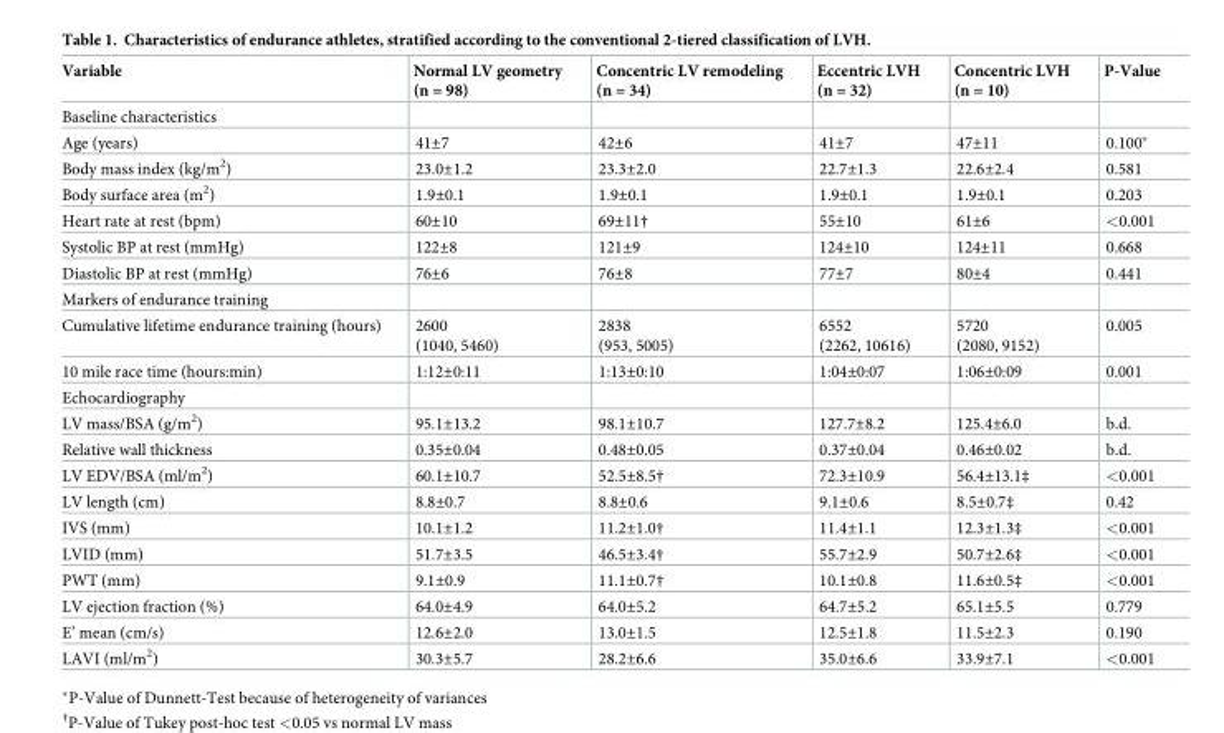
<table><thead><tr><td>Variable</td><td>Normal LV geometry (n = 98)</td><td>Concentric LV remodeling (n = 34)</td><td>Eccentric LVH (n = 32)</td><td>Concentric LVH (n = 10)</td><td>P-Value</td></tr></thead><tbody><tr><td colspan="6">Baseline characteristics</td></tr><tr><td>Age (years)</td><td>41±7</td><td>42±6</td><td>41±7</td><td>47±11</td><td>0.100*</td></tr><tr><td>Body mass index (kg/m<sup>2</sup>)</td><td>23.0±1.2</td><td>23.3±2.0</td><td>22.7±1.3</td><td>22.6±2.4</td><td>0.581</td></tr><tr><td>Body surface area (m<sup>2</sup>)</td><td>1.9±0.1</td><td>1.9±0.1</td><td>1.9±0.1</td><td>1.9±0.1</td><td>0.203</td></tr><tr><td>Heart rate at rest (bpm)</td><td>60±10</td><td>69±11†</td><td>55±10</td><td>61±6</td><td>&lt;0.001</td></tr><tr><td>Systolic BP at rest (mmHg)</td><td>122±8</td><td>121±9</td><td>124±10</td><td>124±11</td><td>0.668</td></tr><tr><td>Diastolic BP at rest (mmHg)</td><td>76±6</td><td>76±8</td><td>77±7</td><td>80±4</td><td>0.441</td></tr><tr><td colspan="6">Markers of endurance training</td></tr><tr><td>Cumulative lifetime endurance training (hours)</td><td>2600 (1040, 5460)</td><td>2838 (953, 5005)</td><td>6552 (2262, 10616)</td><td>5720 (2080, 9152)</td><td>0.005</td></tr><tr><td>10 mile race time (hours:min)</td><td>1:12±0:11</td><td>1:13±0:10</td><td>1:04±0:07</td><td>1:06±0:09</td><td>0.001</td></tr><tr><td colspan="6">Echocardiography</td></tr><tr><td>LV mass/BSA (g/m<sup>2</sup>)</td><td>95.1±13.2</td><td>98.1±10.7</td><td>127.7±8.2</td><td>125.4±6.0</td><td>b.d.</td></tr><tr><td>Relative wall thickness</td><td>0.35±0.04</td><td>0.48±0.05</td><td>0.37±0.04</td><td>0.46±0.02</td><td>b.d.</td></tr><tr><td>LV EDV/BSA (ml/m<sup>2</sup>)</td><td>60.1±10.7</td><td>52.5±8.5†</td><td>72.3±10.9</td><td>56.4±13.1‡</td><td>&lt;0.001</td></tr><tr><td>LV length (cm)</td><td>8.8±0.7</td><td>8.8±0.6</td><td>9.1±0.6</td><td>8.5±0.7‡</td><td>0.42</td></tr><tr><td>IVS (mm)</td><td>10.1±1.2</td><td>11.2±1.0†</td><td>11.4±1.1</td><td>12.3±1.3‡</td><td>&lt;0.001</td></tr><tr><td>LVID (mm)</td><td>51.7±3.5</td><td>46.5±3.4†</td><td>55.7±2.9</td><td>50.7±2.6‡</td><td>&lt;0.001</td></tr><tr><td>PWT (mm)</td><td>9.1±0.9</td><td>11.1±0.7†</td><td>10.1±0.8</td><td>11.6±0.5‡</td><td>&lt;0.001</td></tr><tr><td>LV ejection fraction (%)</td><td>64.0±4.9</td><td>64.0±5.2</td><td>64.7±5.2</td><td>65.1±5.5</td><td>0.779</td></tr><tr><td>E’ mean (cm/s)</td><td>12.6±2.0</td><td>13.0±1.5</td><td>12.5±1.8</td><td>11.5±2.3</td><td>0.190</td></tr><tr><td>LAVI (ml/m<sup>2</sup>)</td><td>30.3±5.7</td><td>28.2±6.6</td><td>35.0±6.6</td><td>33.9±7.1</td><td>&lt;0.001</td></tr></tbody></table>